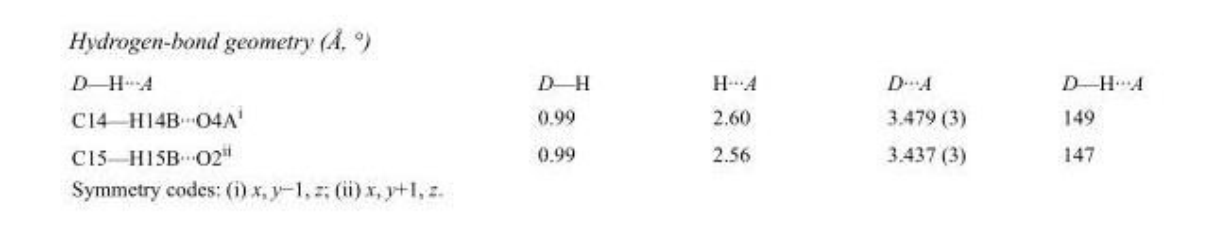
<table><tbody><tr><td>D—H···A</td><td>D—H</td><td>H···A</td><td>D···A</td><td>D—H···A</td></tr><tr><td>C14—H14B···O4A<sup>i</sup></td><td>0.99</td><td>2.60</td><td>3.479 (3)</td><td>149</td></tr><tr><td>C15—H15B···O2<sup>ii</sup></td><td>0.99</td><td>2.56</td><td>3.437 (3)</td><td>147</td></tr></tbody></table>